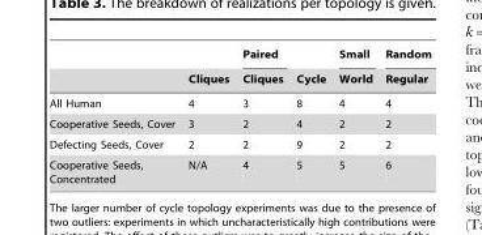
<table><thead><tr><td rowspan="2"></td><td rowspan="2">Cliques</td><td rowspan="2">Paired Cliques</td><td rowspan="2">Cycle</td><td rowspan="2">Small World</td><td rowspan="2">Random Regular</td></tr><tr></tr></thead><tbody><tr><td>All Human</td><td>4</td><td>3</td><td>8</td><td>4</td><td>4</td></tr><tr><td>Cooperative Seeds, Cover</td><td>3</td><td>2</td><td>4</td><td>2</td><td>2</td></tr><tr><td>Defecting Seeds, Cover</td><td>2</td><td>2</td><td>9</td><td>2</td><td>2</td></tr><tr><td>Cooperative Seeds, Concentrated</td><td>N/A</td><td>4</td><td>5</td><td>5</td><td>6</td></tr></tbody></table>